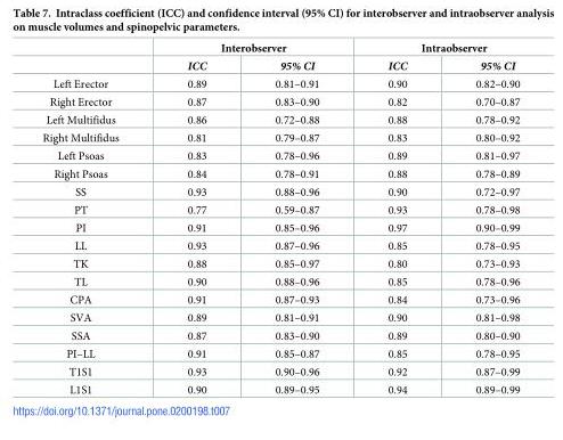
<table><thead><tr><td rowspan="2"></td><td colspan="2">Interobserver</td><td colspan="2">Intraobserver</td></tr><tr><td>ICC</td><td>95% CI</td><td>ICC</td><td>95% CI</td></tr></thead><tbody><tr><td>Left Erector</td><td>0.89</td><td>0.81–0.91</td><td>0.90</td><td>0.82–0.90</td></tr><tr><td>Right Erector</td><td>0.87</td><td>0.83–0.90</td><td>0.82</td><td>0.70–0.87</td></tr><tr><td>Left Multifidus</td><td>0.86</td><td>0.72–0.88</td><td>0.88</td><td>0.78–0.92</td></tr><tr><td>Right Multifidus</td><td>0.81</td><td>0.79–0.87</td><td>0.83</td><td>0.80–0.92</td></tr><tr><td>Left Psoas</td><td>0.83</td><td>0.78–0.96</td><td>0.89</td><td>0.81–0.97</td></tr><tr><td>Right Psoas</td><td>0.84</td><td>0.78–0.91</td><td>0.88</td><td>0.78–0.89</td></tr><tr><td>SS</td><td>0.93</td><td>0.88–0.96</td><td>0.90</td><td>0.72–0.97</td></tr><tr><td>PT</td><td>0.77</td><td>0.59–0.87</td><td>0.93</td><td>0.78–0.98</td></tr><tr><td>PI</td><td>0.91</td><td>0.85–0.96</td><td>0.97</td><td>0.90–0.99</td></tr><tr><td>LL</td><td>0.93</td><td>0.87–0.96</td><td>0.85</td><td>0.78–0.95</td></tr><tr><td>TK</td><td>0.88</td><td>0.85–0.97</td><td>0.80</td><td>0.73–0.93</td></tr><tr><td>TL</td><td>0.90</td><td>0.88–0.96</td><td>0.85</td><td>0.78–0.96</td></tr><tr><td>CPA</td><td>0.91</td><td>0.87–0.93</td><td>0.84</td><td>0.73–0.96</td></tr><tr><td>SVA</td><td>0.89</td><td>0.81–0.91</td><td>0.90</td><td>0.81–0.98</td></tr><tr><td>SSA</td><td>0.87</td><td>0.83–0.90</td><td>0.89</td><td>0.80–0.90</td></tr><tr><td>PI–LL</td><td>0.91</td><td>0.85–0.87</td><td>0.85</td><td>0.78–0.95</td></tr><tr><td>T1S1</td><td>0.93</td><td>0.90–0.96</td><td>0.92</td><td>0.87–0.99</td></tr><tr><td>L1S1</td><td>0.90</td><td>0.89–0.95</td><td>0.94</td><td>0.89–0.99</td></tr></tbody></table>